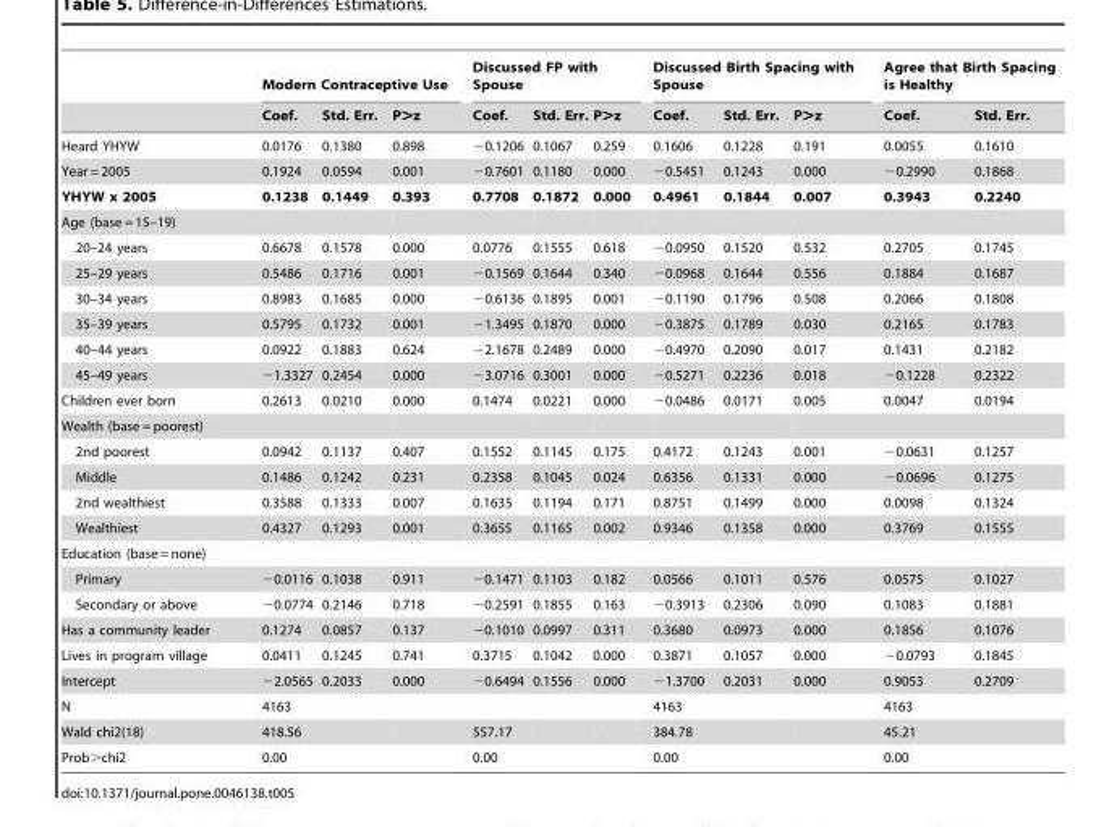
<table><thead><tr><td rowspan="2"></td><td colspan="3">Modern Contraceptive Use</td><td colspan="3">Discussed FP with Spouse</td><td colspan="3">Discussed Birth Spacing with Spouse</td><td colspan="2">Agree that Birth Spacing is Healthy</td></tr><tr><td>Coef.</td><td>Std. Err.</td><td>P&gt;z</td><td>Coef.</td><td>Std. Err.</td><td>P&gt;z</td><td>Coef.</td><td>Std. Err.</td><td>P&gt;z</td><td>Coef.</td><td>Std. Err.</td></tr></thead><tbody><tr><td>Heard YHYW</td><td>0.0176</td><td>0.1380</td><td>0.898</td><td>−0.1206</td><td>0.1067</td><td>0.259</td><td>0.1606</td><td>0.1228</td><td>0.191</td><td>0.0055</td><td>0.1610</td></tr><tr><td>Year = 2005</td><td>0.1924</td><td>0.0594</td><td>0.001</td><td>−0.7601</td><td>0.1180</td><td>0.000</td><td>−0.5451</td><td>0.1243</td><td>0.000</td><td>−0.2990</td><td>0.1868</td></tr><tr><td>YHYW x 2005</td><td>0.1238</td><td>0.1449</td><td>0.393</td><td>0.7708</td><td>0.1872</td><td>0.000</td><td>0.4961</td><td>0.1844</td><td>0.007</td><td>0.3943</td><td>0.2240</td></tr><tr><td colspan="12">Age (base = 15–19)</td></tr><tr><td>20–24 years</td><td>0.6678</td><td>0.1578</td><td>0.000</td><td>0.0776</td><td>0.1555</td><td>0.618</td><td>−0.0950</td><td>0.1520</td><td>0.532</td><td>0.2705</td><td>0.1745</td></tr><tr><td>25–29 years</td><td>0.5486</td><td>0.1716</td><td>0.001</td><td>−0.1569</td><td>0.1644</td><td>0.340</td><td>−0.0968</td><td>0.1644</td><td>0.556</td><td>0.1884</td><td>0.1687</td></tr><tr><td>30–34 years</td><td>0.8983</td><td>0.1685</td><td>0.000</td><td>−0.6136</td><td>0.1895</td><td>0.001</td><td>−0.1190</td><td>0.1796</td><td>0.508</td><td>0.2066</td><td>0.1808</td></tr><tr><td>35–39 years</td><td>0.5795</td><td>0.1732</td><td>0.001</td><td>−1.3495</td><td>0.1870</td><td>0.000</td><td>−0.3875</td><td>0.1789</td><td>0.030</td><td>0.2165</td><td>0.1783</td></tr><tr><td>40–44 years</td><td>0.0922</td><td>0.1883</td><td>0.624</td><td>−2.1678</td><td>0.2489</td><td>0.000</td><td>−0.4970</td><td>0.2090</td><td>0.017</td><td>0.1431</td><td>0.2182</td></tr><tr><td>45–49 years</td><td>−1.3327</td><td>0.2454</td><td>0.000</td><td>−3.0716</td><td>0.3001</td><td>0.000</td><td>−0.5271</td><td>0.2236</td><td>0.018</td><td>−0.1228</td><td>0.2322</td></tr><tr><td>Children ever born</td><td>0.2613</td><td>0.0210</td><td>0.000</td><td>0.1474</td><td>0.0221</td><td>0.000</td><td>−0.0486</td><td>0.0171</td><td>0.005</td><td>0.0047</td><td>0.0194</td></tr><tr><td colspan="12">Wealth (base = poorest)</td></tr><tr><td>2nd poorest</td><td>0.0942</td><td>0.1137</td><td>0.407</td><td>0.1552</td><td>0.1145</td><td>0.175</td><td>0.4172</td><td>0.1243</td><td>0.001</td><td>−0.0631</td><td>0.1257</td></tr><tr><td>Middle</td><td>0.1486</td><td>0.1242</td><td>0.231</td><td>0.2358</td><td>0.1045</td><td>0.024</td><td>0.6356</td><td>0.1331</td><td>0.000</td><td>−0.0696</td><td>0.1275</td></tr><tr><td>2nd wealthiest</td><td>0.3588</td><td>0.1333</td><td>0.007</td><td>0.1635</td><td>0.1194</td><td>0.171</td><td>0.8751</td><td>0.1499</td><td>0.000</td><td>0.0098</td><td>0.1324</td></tr><tr><td>Wealthiest</td><td>0.4327</td><td>0.1293</td><td>0.001</td><td>0.3655</td><td>0.1165</td><td>0.002</td><td>0.9346</td><td>0.1358</td><td>0.000</td><td>0.3769</td><td>0.1555</td></tr><tr><td colspan="12">Education (base = none)</td></tr><tr><td>Primary</td><td>−0.0116</td><td>0.1038</td><td>0.911</td><td>−0.1471</td><td>0.1103</td><td>0.182</td><td>0.0566</td><td>0.1011</td><td>0.576</td><td>0.0575</td><td>0.1027</td></tr><tr><td>Secondary or above</td><td>−0.0774</td><td>0.2146</td><td>0.718</td><td>−0.2591</td><td>0.1855</td><td>0.163</td><td>−0.3913</td><td>0.2306</td><td>0.090</td><td>0.1083</td><td>0.1881</td></tr><tr><td>Has a community leader</td><td>0.1274</td><td>0.0857</td><td>0.137</td><td>−0.1010</td><td>0.0997</td><td>0.311</td><td>0.3680</td><td>0.0973</td><td>0.000</td><td>0.1856</td><td>0.1076</td></tr><tr><td>Lives in program village</td><td>0.0411</td><td>0.1245</td><td>0.741</td><td>0.3715</td><td>0.1042</td><td>0.000</td><td>0.3871</td><td>0.1057</td><td>0.000</td><td>−0.0793</td><td>0.1845</td></tr><tr><td>Intercept</td><td>−2.0565</td><td>0.2033</td><td>0.000</td><td>−0.6494</td><td>0.1556</td><td>0.000</td><td>−1.3700</td><td>0.2031</td><td>0.000</td><td>0.9053</td><td>0.2709</td></tr><tr><td>N</td><td>4163</td><td></td><td></td><td></td><td></td><td></td><td>4163</td><td></td><td></td><td>4163</td><td></td></tr><tr><td>Wald chi2(18)</td><td>418.56</td><td></td><td></td><td>557.17</td><td></td><td></td><td>384.78</td><td></td><td></td><td>45.21</td><td></td></tr><tr><td>Prob&gt;chi2</td><td>0.00</td><td></td><td></td><td>0.00</td><td></td><td></td><td>0.00</td><td></td><td></td><td>0.00</td><td></td></tr></tbody></table>